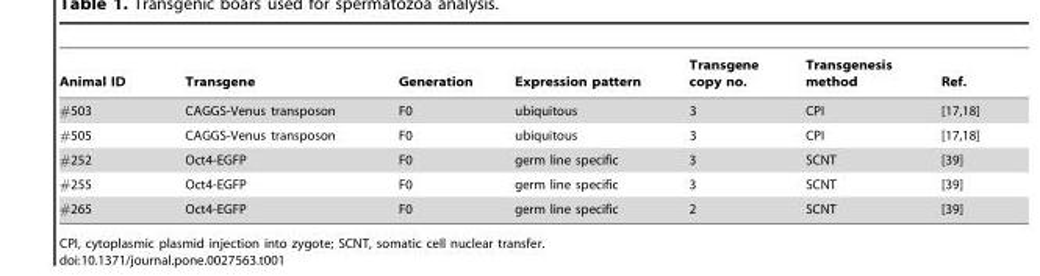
<table><thead><tr><td>Animal ID</td><td>Transgene</td><td>Generation</td><td>Expression pattern</td><td>Transgene copy no.</td><td>Transgenesis method</td><td>Ref.</td></tr></thead><tbody><tr><td>#503</td><td>CAGGS-Venus transposon</td><td>F0</td><td>ubiquitous</td><td>3</td><td>CPI</td><td>[17,18]</td></tr><tr><td>#505</td><td>CAGGS-Venus transposon</td><td>F0</td><td>ubiquitous</td><td>3</td><td>CPI</td><td>[17,18]</td></tr><tr><td>#252</td><td>Oct4-EGFP</td><td>F0</td><td>germ line specific</td><td>3</td><td>SCNT</td><td>[39]</td></tr><tr><td>#255</td><td>Oct4-EGFP</td><td>F0</td><td>germ line specific</td><td>3</td><td>SCNT</td><td>[39]</td></tr><tr><td>#265</td><td>Oct4-EGFP</td><td>F0</td><td>germ line specific</td><td>2</td><td>SCNT</td><td>[39]</td></tr></tbody></table>